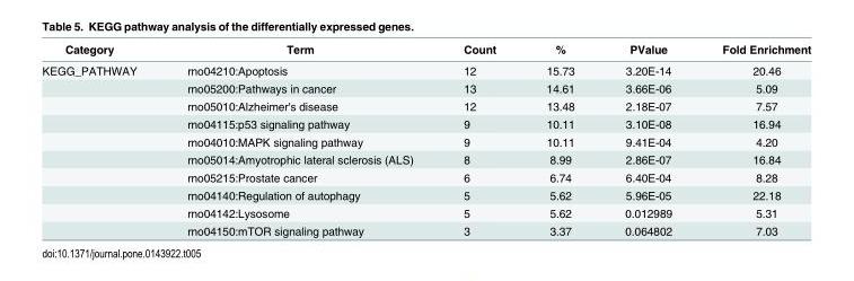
<table><thead><tr><td>Category</td><td>Term</td><td>Count</td><td>%</td><td>PValue</td><td>Fold Enrichment</td></tr></thead><tbody><tr><td rowspan="10">KEGG_PATHWAY</td><td>rno04210:Apoptosis</td><td>12</td><td>15.73</td><td>3.20E-14</td><td>20.46</td></tr><tr><td>rno05200:Pathways in cancer</td><td>13</td><td>14.61</td><td>3.66E-06</td><td>5.09</td></tr><tr><td>rno05010:Alzheimer&#x27;s disease</td><td>12</td><td>13.48</td><td>2.18E-07</td><td>7.57</td></tr><tr><td>rno04115:p53 signaling pathway</td><td>9</td><td>10.11</td><td>3.10E-08</td><td>16.94</td></tr><tr><td>rno04010:MAPK signaling pathway</td><td>9</td><td>10.11</td><td>9.41E-04</td><td>4.20</td></tr><tr><td>rno05014:Amyotrophic lateral sclerosis (ALS)</td><td>8</td><td>8.99</td><td>2.86E-07</td><td>16.84</td></tr><tr><td>rno05215:Prostate cancer</td><td>6</td><td>6.74</td><td>6.40E-04</td><td>8.28</td></tr><tr><td>rno04140:Regulation of autophagy</td><td>5</td><td>5.62</td><td>5.96E-05</td><td>22.18</td></tr><tr><td>rno04142:Lysosome</td><td>5</td><td>5.62</td><td>0.012989</td><td>5.31</td></tr><tr><td>rno04150:mTOR signaling pathway</td><td>3</td><td>3.37</td><td>0.064802</td><td>7.03</td></tr></tbody></table>